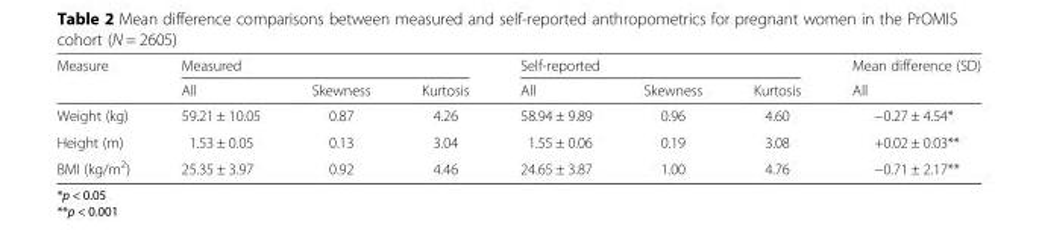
<table><thead><tr><td rowspan="2">Measure</td><td colspan="3">Measured</td><td colspan="3">Self-reported</td><td rowspan="2">Mean difference (SD) All</td></tr><tr><td>All</td><td>Skewness</td><td>Kurtosis</td><td>All</td><td>Skewness</td><td>Kurtosis</td></tr></thead><tbody><tr><td>Weight (kg)</td><td>59.21 ± 10.05</td><td>0.87</td><td>4.26</td><td>58.94 ± 9.89</td><td>0.96</td><td>4.60</td><td>−0.27 ± 4.54*</td></tr><tr><td>Height (m)</td><td>1.53 ± 0.05</td><td>0.13</td><td>3.04</td><td>1.55 ± 0.06</td><td>0.19</td><td>3.08</td><td>+0.02 ± 0.03**</td></tr><tr><td>BMI (kg/m<sup>2</sup>)</td><td>25.35 ± 3.97</td><td>0.92</td><td>4.46</td><td>24.65 ± 3.87</td><td>1.00</td><td>4.76</td><td>−0.71 ± 2.17**</td></tr></tbody></table>